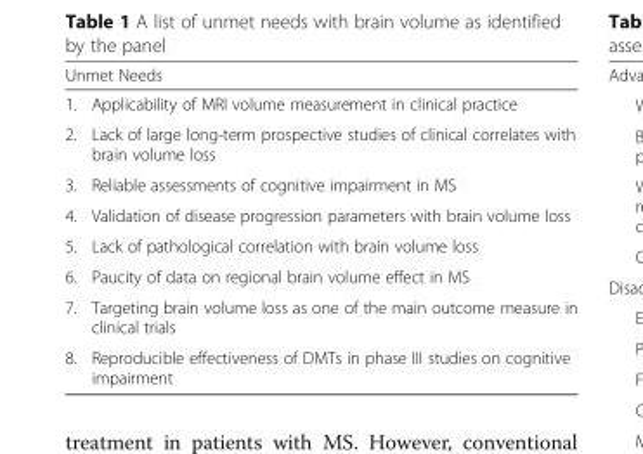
<table><thead><tr><td colspan="2">Unmet Needs</td></tr><tr><td>1.</td><td>Applicability of MRI volume measurement in clinical practice</td></tr></thead><tbody><tr><td>2.</td><td>Lack of large long-term prospective studies of clinical correlates with brain volume loss</td></tr><tr><td>3.</td><td>Reliable assessments of cognitive impairment in MS</td></tr><tr><td>4.</td><td>Validation of disease progression parameters with brain volume loss</td></tr><tr><td>5.</td><td>Lack of pathological correlation with brain volume loss</td></tr><tr><td>6.</td><td>Paucity of data on regional brain volume effect in MS</td></tr><tr><td>7.</td><td>Targeting brain volume loss as one of the main outcome measure in clinical trials</td></tr><tr><td>8.</td><td>Reproducible effectiveness of DMTs in phase III studies on cognitive impairment</td></tr></tbody></table>